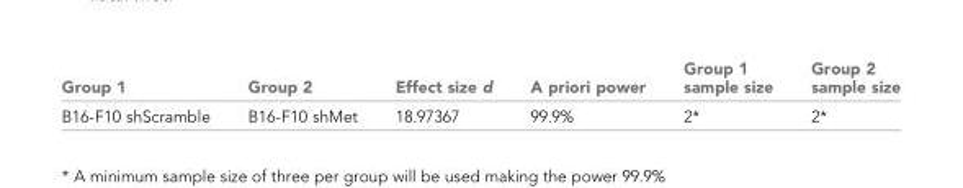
<table><thead><tr><td>Group 1</td><td>Group 2</td><td>Effect size d</td><td>A priori power</td><td>Group 1 sample size</td><td>Group 2 sample size</td></tr></thead><tbody><tr><td>B16-F10 shScramble</td><td>B16-F10 shMet</td><td>18.97367</td><td>99.9%</td><td>2*</td><td>2*</td></tr></tbody></table>